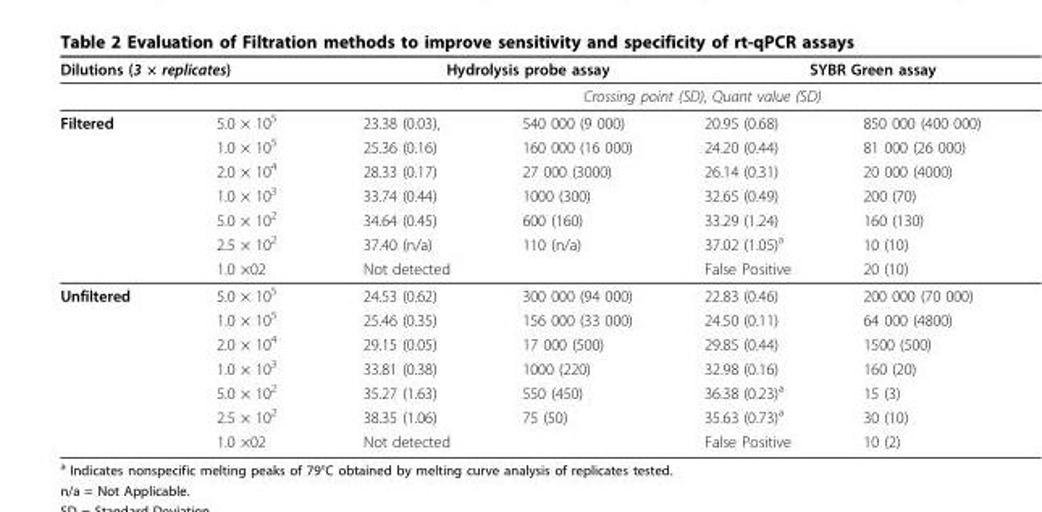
<table><thead><tr><td colspan="2">Dilutions (3 × replicates)</td><td colspan="2">Hydrolysis probe assay</td><td colspan="2">SYBR Green assay</td></tr><tr><td rowspan="2">Filtered</td><td rowspan="2">5.0 × 10<sup>5</sup></td><td colspan="4">Crossing point (SD), Quant value (SD)</td></tr><tr><td>23.38 (0.03),</td><td>540 000 (9 000)</td><td>20.95 (0.68)</td><td>850 000 (400 000)</td></tr></thead><tbody><tr><td></td><td>1.0 × 10<sup>5</sup></td><td>25.36 (0.16)</td><td>160 000 (16 000)</td><td>24.20 (0.44)</td><td>81 000 (26 000)</td></tr><tr><td></td><td>2.0 × 10<sup>4</sup></td><td>28.33 (0.17)</td><td>27 000 (3000)</td><td>26.14 (0.31)</td><td>20 000 (4000)</td></tr><tr><td></td><td>1.0 × 10<sup>3</sup></td><td>33.74 (0.44)</td><td>1000 (300)</td><td>32.65 (0.49)</td><td>200 (70)</td></tr><tr><td></td><td>5.0 × 10<sup>2</sup></td><td>34.64 (0.45)</td><td>600 (160)</td><td>33.29 (1.24)</td><td>160 (130)</td></tr><tr><td></td><td>2.5 × 10<sup>2</sup></td><td>37.40 (n/a)</td><td>110 (n/a)</td><td>37.02 (1.05)<sup>a</sup></td><td>10 (10)</td></tr><tr><td></td><td>1.0 ×02</td><td>Not detected</td><td></td><td>False Positive</td><td>20 (10)</td></tr><tr><td rowspan="7">Unfiltered</td><td>5.0 × 10<sup>5</sup></td><td>24.53 (0.62)</td><td>300 000 (94 000)</td><td>22.83 (0.46)</td><td>200 000 (70 000)</td></tr><tr><td>1.0 × 10<sup>5</sup></td><td>25.46 (0.35)</td><td>156 000 (33 000)</td><td>24.50 (0.11)</td><td>64 000 (4800)</td></tr><tr><td>2.0 × 10<sup>4</sup></td><td>29.15 (0.05)</td><td>17 000 (500)</td><td>29.85 (0.44)</td><td>1500 (500)</td></tr><tr><td>1.0 × 10<sup>3</sup></td><td>33.81 (0.38)</td><td>1000 (220)</td><td>32.98 (0.16)</td><td>160 (20)</td></tr><tr><td>5.0 × 10<sup>2</sup></td><td>35.27 (1.63)</td><td>550 (450)</td><td>36.38 (0.23)<sup>a</sup></td><td>15 (3)</td></tr><tr><td>2.5 × 10<sup>2</sup></td><td>38.35 (1.06)</td><td>75 (50)</td><td>35.63 (0.73)<sup>a</sup></td><td>30 (10)</td></tr><tr><td>1.0 ×02</td><td>Not detected</td><td></td><td>False Positive</td><td>10 (2)</td></tr></tbody></table>